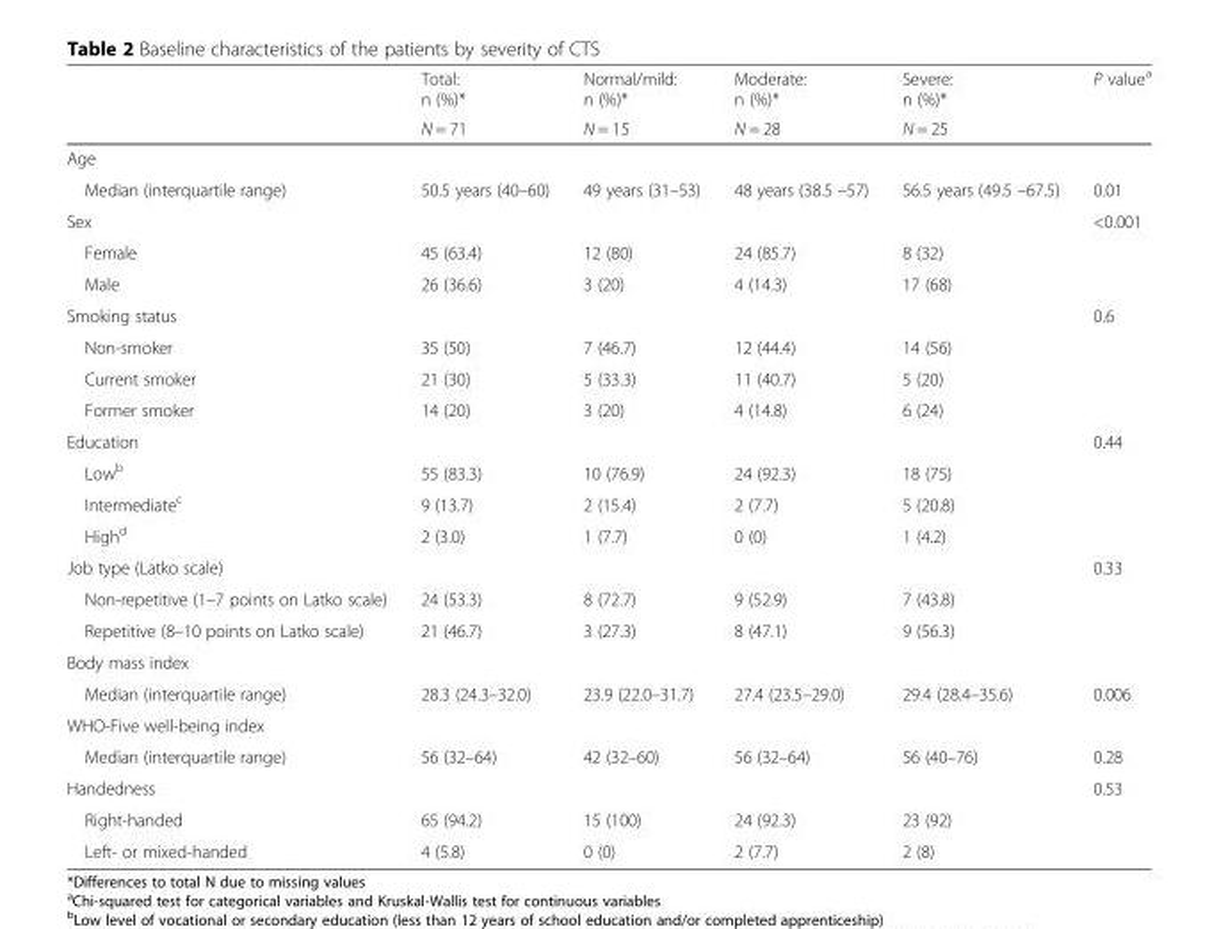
<table><thead><tr><td rowspan="2"></td><td rowspan="2">Total: n (%)* N = 71</td><td rowspan="2">Normal/mild: n (%)* N = 15</td><td rowspan="2">Moderate: n (%)* N = 28</td><td rowspan="2">Severe: n (%)* N = 25</td><td rowspan="2">P value<sup>a</sup></td></tr><tr></tr></thead><tbody><tr><td colspan="6">Age</td></tr><tr><td>Median (interquartile range)</td><td>50.5 years (40–60)</td><td>49 years (31–53)</td><td>48 years (38.5 –57)</td><td>56.5 years (49.5 –67.5)</td><td>0.01</td></tr><tr><td>Sex</td><td></td><td></td><td></td><td></td><td>&lt;0.001</td></tr><tr><td>Female</td><td>45 (63.4)</td><td>12 (80)</td><td>24 (85.7)</td><td>8 (32)</td><td></td></tr><tr><td>Male</td><td>26 (36.6)</td><td>3 (20)</td><td>4 (14.3)</td><td>17 (68)</td><td></td></tr><tr><td>Smoking status</td><td></td><td></td><td></td><td></td><td>0.6</td></tr><tr><td>Non-smoker</td><td>35 (50)</td><td>7 (46.7)</td><td>12 (44.4)</td><td>14 (56)</td><td></td></tr><tr><td>Current smoker</td><td>21 (30)</td><td>5 (33.3)</td><td>11 (40.7)</td><td>5 (20)</td><td></td></tr><tr><td>Former smoker</td><td>14 (20)</td><td>3 (20)</td><td>4 (14.8)</td><td>6 (24)</td><td></td></tr><tr><td>Education</td><td></td><td></td><td></td><td></td><td>0.44</td></tr><tr><td>Low<sup>b</sup></td><td>55 (83.3)</td><td>10 (76.9)</td><td>24 (92.3)</td><td>18 (75)</td><td></td></tr><tr><td>Intermediate<sup>c</sup></td><td>9 (13.7)</td><td>2 (15.4)</td><td>2 (7.7)</td><td>5 (20.8)</td><td></td></tr><tr><td>High<sup>d</sup></td><td>2 (3.0)</td><td>1 (7.7)</td><td>0 (0)</td><td>1 (4.2)</td><td></td></tr><tr><td>Job type (Latko scale)</td><td></td><td></td><td></td><td></td><td>0.33</td></tr><tr><td>Non-repetitive (1–7 points on Latko scale)</td><td>24 (53.3)</td><td>8 (72.7)</td><td>9 (52.9)</td><td>7 (43.8)</td><td></td></tr><tr><td>Repetitive (8–10 points on Latko scale)</td><td>21 (46.7)</td><td>3 (27.3)</td><td>8 (47.1)</td><td>9 (56.3)</td><td></td></tr><tr><td colspan="6">Body mass index</td></tr><tr><td>Median (interquartile range)</td><td>28.3 (24.3–32.0)</td><td>23.9 (22.0–31.7)</td><td>27.4 (23.5–29.0)</td><td>29.4 (28.4–35.6)</td><td>0.006</td></tr><tr><td colspan="6">WHO-Five well-being index</td></tr><tr><td>Median (interquartile range)</td><td>56 (32–64)</td><td>42 (32–60)</td><td>56 (32–64)</td><td>56 (40–76)</td><td>0.28</td></tr><tr><td>Handedness</td><td></td><td></td><td></td><td></td><td>0.53</td></tr><tr><td>Right-handed</td><td>65 (94.2)</td><td>15 (100)</td><td>24 (92.3)</td><td>23 (92)</td><td></td></tr><tr><td>Left- or mixed-handed</td><td>4 (5.8)</td><td>0 (0)</td><td>2 (7.7)</td><td>2 (8)</td><td></td></tr></tbody></table>